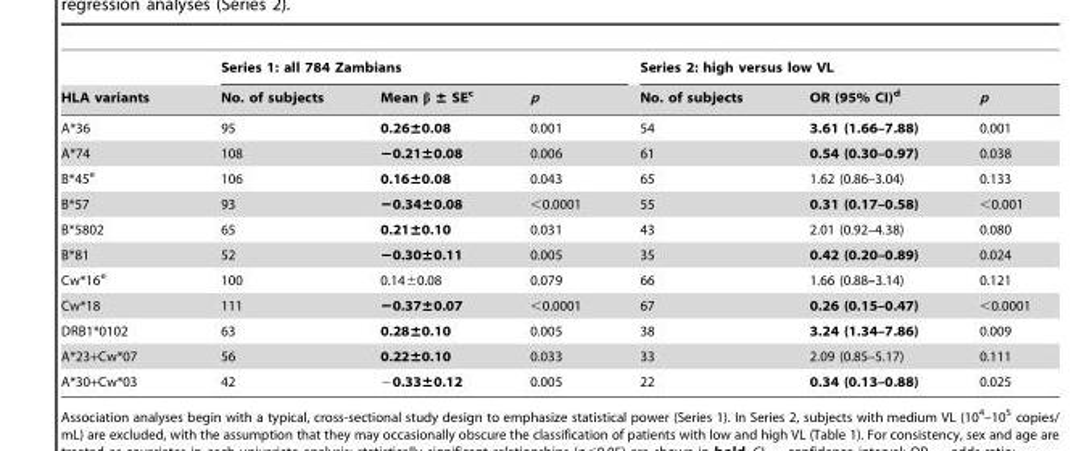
<table><thead><tr><td rowspan="2">HLA variants</td><td colspan="3">Series 1: all 784 Zambians</td><td colspan="3">Series 2: high versus low VL</td></tr><tr><td>No. of subjects</td><td>Mean β ± SE<sup>c</sup></td><td>p</td><td>No. of subjects</td><td>OR (95% CI)<sup>d</sup></td><td>p</td></tr></thead><tbody><tr><td>A*36</td><td>95</td><td>0.26±0.08</td><td>0.001</td><td>54</td><td>3.61 (1.66–7.88)</td><td>0.001</td></tr><tr><td>A*74</td><td>108</td><td>−0.21±0.08</td><td>0.006</td><td>61</td><td>0.54 (0.30–0.97)</td><td>0.038</td></tr><tr><td>B*45<sup>e</sup></td><td>106</td><td>0.16±0.08</td><td>0.043</td><td>65</td><td>1.62 (0.86–3.04)</td><td>0.133</td></tr><tr><td>B*57</td><td>93</td><td>−0.34±0.08</td><td>&lt;0.0001</td><td>55</td><td>0.31 (0.17–0.58)</td><td>&lt;0.001</td></tr><tr><td>B*5802</td><td>65</td><td>0.21±0.10</td><td>0.031</td><td>43</td><td>2.01 (0.92–4.38)</td><td>0.080</td></tr><tr><td>B*81</td><td>52</td><td>−0.30±0.11</td><td>0.005</td><td>35</td><td>0.42 (0.20–0.89)</td><td>0.024</td></tr><tr><td>Cw*16<sup>e</sup></td><td>100</td><td>0.14±0.08</td><td>0.079</td><td>66</td><td>1.66 (0.88–3.14)</td><td>0.121</td></tr><tr><td>Cw*18</td><td>111</td><td>−0.37±0.07</td><td>&lt;0.0001</td><td>67</td><td>0.26 (0.15–0.47)</td><td>&lt;0.0001</td></tr><tr><td>DRB1*0102</td><td>63</td><td>0.28±0.10</td><td>0.005</td><td>38</td><td>3.24 (1.34–7.86)</td><td>0.009</td></tr><tr><td>A*23+Cw*07</td><td>56</td><td>0.22±0.10</td><td>0.033</td><td>33</td><td>2.09 (0.85–5.17)</td><td>0.111</td></tr><tr><td>A*30+Cw*03</td><td>42</td><td>−0.33±0.12</td><td>0.005</td><td>22</td><td>0.34 (0.13–0.88)</td><td>0.025</td></tr></tbody></table>